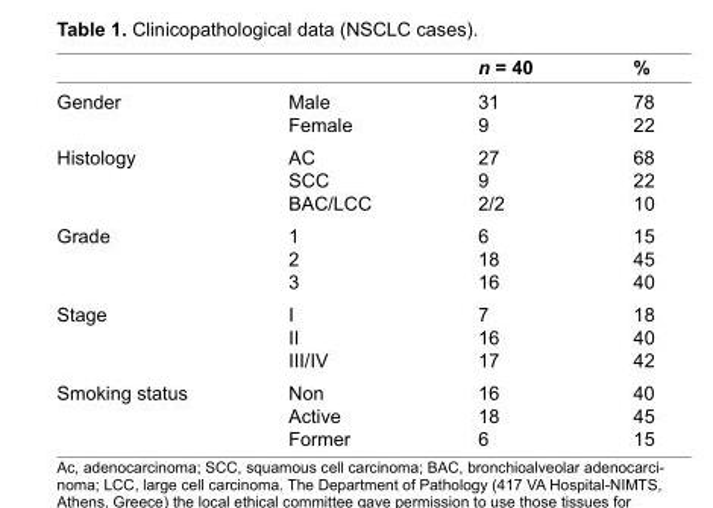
<table><thead><tr><td></td><td></td><td>n = 40</td><td>%</td></tr></thead><tbody><tr><td rowspan="2">Gender</td><td>Male</td><td>31</td><td>78</td></tr><tr><td>Female</td><td>9</td><td>22</td></tr><tr><td rowspan="3">Histology</td><td>AC</td><td>27</td><td>68</td></tr><tr><td>SCC</td><td>9</td><td>22</td></tr><tr><td>BAC/LCC</td><td>2/2</td><td>10</td></tr><tr><td rowspan="3">Grade</td><td>1</td><td>6</td><td>15</td></tr><tr><td>2</td><td>18</td><td>45</td></tr><tr><td>3</td><td>16</td><td>40</td></tr><tr><td rowspan="3">Stage</td><td>I</td><td>7</td><td>18</td></tr><tr><td>II</td><td>16</td><td>40</td></tr><tr><td>III/IV</td><td>17</td><td>42</td></tr><tr><td rowspan="3">Smoking status</td><td>Non</td><td>16</td><td>40</td></tr><tr><td>Active</td><td>18</td><td>45</td></tr><tr><td>Former</td><td>6</td><td>15</td></tr></tbody></table>